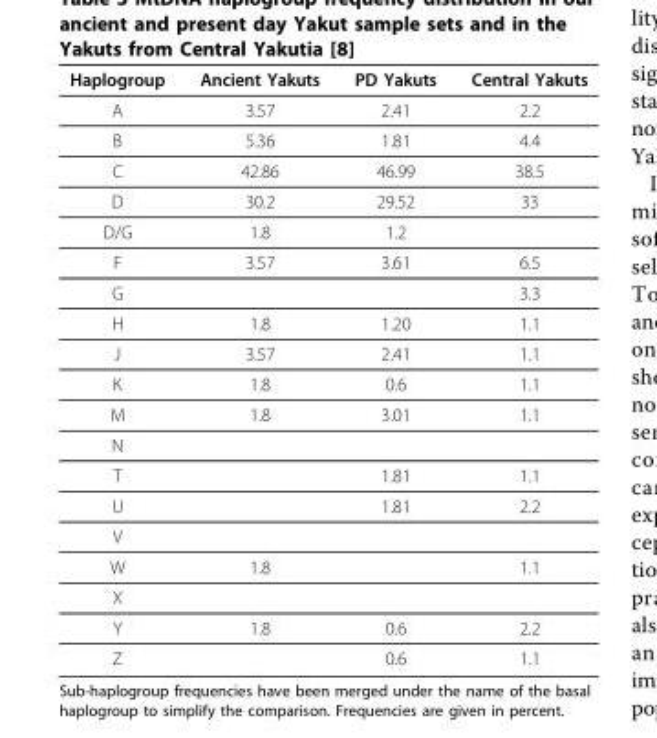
<table><thead><tr><td>Haplogroup</td><td>Ancient Yakuts</td><td>PD Yakuts</td><td>Central Yakuts</td></tr></thead><tbody><tr><td>A</td><td>3.57</td><td>2.41</td><td>2.2</td></tr><tr><td>B</td><td>5.36</td><td>1.81</td><td>4.4</td></tr><tr><td>C</td><td>42.86</td><td>46.99</td><td>38.5</td></tr><tr><td>D</td><td>30.2</td><td>29.52</td><td>33</td></tr><tr><td>D/G</td><td>1.8</td><td>1.2</td><td></td></tr><tr><td>F</td><td>3.57</td><td>3.61</td><td>6.5</td></tr><tr><td>G</td><td></td><td></td><td>3.3</td></tr><tr><td>H</td><td>1.8</td><td>1.20</td><td>1.1</td></tr><tr><td>J</td><td>3.57</td><td>2.41</td><td>1.1</td></tr><tr><td>K</td><td>1.8</td><td>0.6</td><td>1.1</td></tr><tr><td>M</td><td>1.8</td><td>3.01</td><td>1.1</td></tr><tr><td colspan="4">N</td></tr><tr><td>T</td><td></td><td>1.81</td><td>1.1</td></tr><tr><td>U</td><td></td><td>1.81</td><td>2.2</td></tr><tr><td colspan="4">V</td></tr><tr><td>W</td><td>1.8</td><td></td><td>1.1</td></tr><tr><td colspan="4">X</td></tr><tr><td>Y</td><td>1.8</td><td>0.6</td><td>2.2</td></tr><tr><td>Z</td><td></td><td>0.6</td><td>1.1</td></tr></tbody></table>